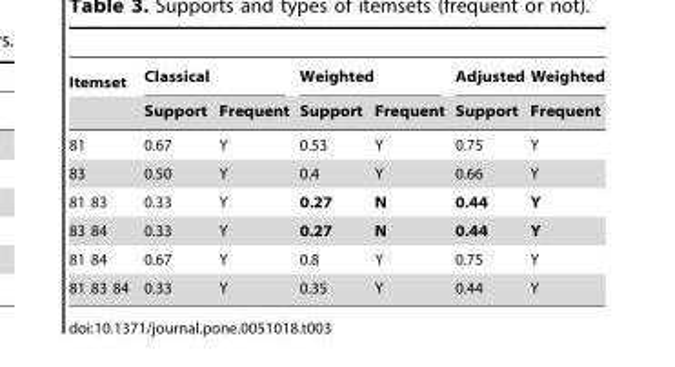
<table><thead><tr><td rowspan="2">Itemset</td><td colspan="2">Classical</td><td colspan="2">Weighted</td><td colspan="2">Adjusted Weighted</td></tr><tr><td>Support</td><td>Frequent</td><td>Support</td><td>Frequent</td><td>Support</td><td>Frequent</td></tr></thead><tbody><tr><td>81</td><td>0.67</td><td>Y</td><td>0.53</td><td>Y</td><td>0.75</td><td>Y</td></tr><tr><td>83</td><td>0.50</td><td>Y</td><td>0.4</td><td>Y</td><td>0.66</td><td>Y</td></tr><tr><td>81 83</td><td>0.33</td><td>Y</td><td>0.27</td><td>N</td><td>0.44</td><td>Y</td></tr><tr><td>83 84</td><td>0.33</td><td>Y</td><td>0.27</td><td>N</td><td>0.44</td><td>Y</td></tr><tr><td>81 84</td><td>0.67</td><td>Y</td><td>0.8</td><td>Y</td><td>0.75</td><td>Y</td></tr><tr><td>81 83 84</td><td>0.33</td><td>Y</td><td>0.35</td><td>Y</td><td>0.44</td><td>Y</td></tr></tbody></table>